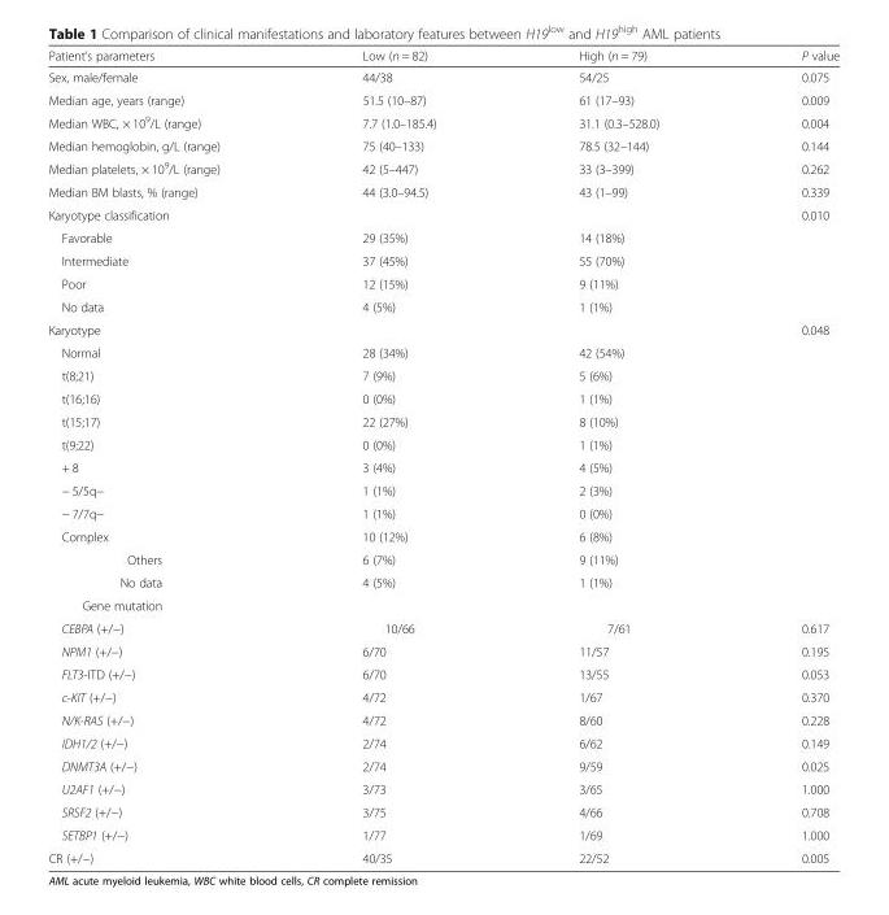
<table><thead><tr><td>Patient’s parameters</td><td>Low (n = 82)</td><td>High (n = 79)</td><td>P value</td></tr></thead><tbody><tr><td>Sex, male/female</td><td>44/38</td><td>54/25</td><td>0.075</td></tr><tr><td>Median age, years (range)</td><td>51.5 (10–87)</td><td>61 (17–93)</td><td>0.009</td></tr><tr><td>Median WBC, × 10<sup>9</sup>/L (range)</td><td>7.7 (1.0–185.4)</td><td>31.1 (0.3–528.0)</td><td>0.004</td></tr><tr><td>Median hemoglobin, g/L (range)</td><td>75 (40–133)</td><td>78.5 (32–144)</td><td>0.144</td></tr><tr><td>Median platelets, × 10<sup>9</sup>/L (range)</td><td>42 (5–447)</td><td>33 (3–399)</td><td>0.262</td></tr><tr><td>Median BM blasts, % (range)</td><td>44 (3.0–94.5)</td><td>43 (1–99)</td><td>0.339</td></tr><tr><td colspan="3">Karyotype classification</td><td>0.010</td></tr><tr><td>Favorable</td><td>29 (35%)</td><td>14 (18%)</td><td></td></tr><tr><td>Intermediate</td><td>37 (45%)</td><td>55 (70%)</td><td></td></tr><tr><td>Poor</td><td>12 (15%)</td><td>9 (11%)</td><td></td></tr><tr><td>No data</td><td>4 (5%)</td><td>1 (1%)</td><td></td></tr><tr><td colspan="3">Karyotype</td><td>0.048</td></tr><tr><td>Normal</td><td>28 (34%)</td><td>42 (54%)</td><td></td></tr><tr><td>t(8;21)</td><td>7 (9%)</td><td>5 (6%)</td><td></td></tr><tr><td>t(16;16)</td><td>0 (0%)</td><td>1 (1%)</td><td></td></tr><tr><td>t(15;17)</td><td>22 (27%)</td><td>8 (10%)</td><td></td></tr><tr><td>t(9;22)</td><td>0 (0%)</td><td>1 (1%)</td><td></td></tr><tr><td>+ 8</td><td>3 (4%)</td><td>4 (5%)</td><td></td></tr><tr><td>− 5/5q−</td><td>1 (1%)</td><td>2 (3%)</td><td></td></tr><tr><td>− 7/7q−</td><td>1 (1%)</td><td>0 (0%)</td><td></td></tr><tr><td>Complex</td><td>10 (12%)</td><td>6 (8%)</td><td></td></tr><tr><td>Others</td><td>6 (7%)</td><td>9 (11%)</td><td></td></tr><tr><td>No data</td><td>4 (5%)</td><td>1 (1%)</td><td></td></tr><tr><td colspan="4">Gene mutation</td></tr><tr><td>CEBPA (+/−)</td><td>10/66</td><td>7/61</td><td>0.617</td></tr><tr><td>NPM1 (+/−)</td><td>6/70</td><td>11/57</td><td>0.195</td></tr><tr><td>FLT3-ITD (+/−)</td><td>6/70</td><td>13/55</td><td>0.053</td></tr><tr><td>c-KIT (+/−)</td><td>4/72</td><td>1/67</td><td>0.370</td></tr><tr><td>N/K-RAS (+/−)</td><td>4/72</td><td>8/60</td><td>0.228</td></tr><tr><td>IDH1/2 (+/−)</td><td>2/74</td><td>6/62</td><td>0.149</td></tr><tr><td>DNMT3A (+/−)</td><td>2/74</td><td>9/59</td><td>0.025</td></tr><tr><td>U2AF1 (+/−)</td><td>3/73</td><td>3/65</td><td>1.000</td></tr><tr><td>SRSF2 (+/−)</td><td>3/75</td><td>4/66</td><td>0.708</td></tr><tr><td>SETBP1 (+/−)</td><td>1/77</td><td>1/69</td><td>1.000</td></tr><tr><td>CR (+/−)</td><td>40/35</td><td>22/52</td><td>0.005</td></tr></tbody></table>